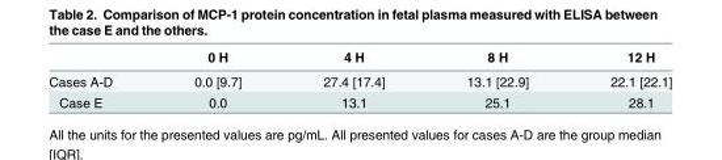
<table><thead><tr><td></td><td>0 H</td><td>4 H</td><td>8 H</td><td>12 H</td></tr></thead><tbody><tr><td>Cases A-D</td><td>0.0 [9.7]</td><td>27.4 [17.4]</td><td>13.1 [22.9]</td><td>22.1 [22.1]</td></tr><tr><td>Case E</td><td>0.0</td><td>13.1</td><td>25.1</td><td>28.1</td></tr></tbody></table>